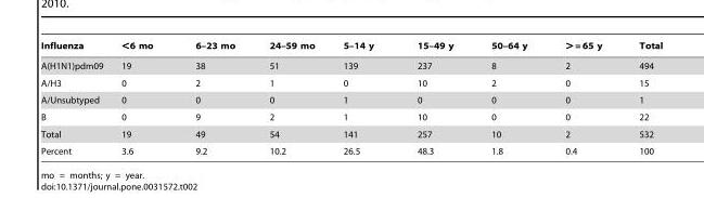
<table><thead><tr><td>Influenza</td><td>&lt;6 mo</td><td>6–23 mo</td><td>24–59 mo</td><td>5–14 y</td><td>15–49 y</td><td>50–64 y</td><td>&gt; = 65 y</td><td>Total</td></tr></thead><tbody><tr><td>A(H1N1)pdm09</td><td>19</td><td>38</td><td>51</td><td>139</td><td>237</td><td>8</td><td>2</td><td>494</td></tr><tr><td>A/H3</td><td>0</td><td>2</td><td>1</td><td>0</td><td>10</td><td>2</td><td>0</td><td>15</td></tr><tr><td>A/Unsubtyped</td><td>0</td><td>0</td><td>0</td><td>1</td><td>0</td><td>0</td><td>0</td><td>1</td></tr><tr><td>B</td><td>0</td><td>9</td><td>2</td><td>1</td><td>10</td><td>0</td><td>0</td><td>22</td></tr><tr><td>Total</td><td>19</td><td>49</td><td>54</td><td>141</td><td>257</td><td>10</td><td>2</td><td>532</td></tr><tr><td>Percent</td><td>3.6</td><td>9.2</td><td>10.2</td><td>26.5</td><td>48.3</td><td>1.8</td><td>0.4</td><td>100</td></tr></tbody></table>